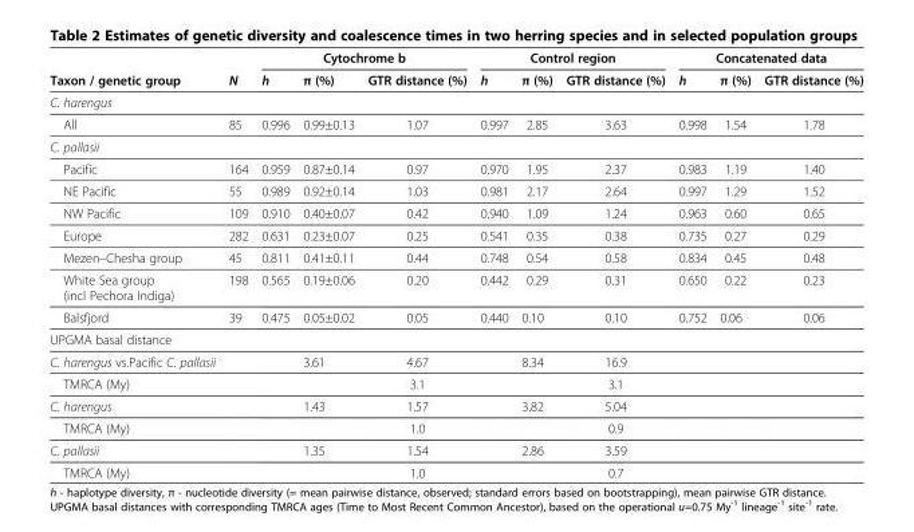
<table><thead><tr><td rowspan="2">Taxon / genetic group</td><td rowspan="2">N</td><td colspan="3">Cytochrome b</td><td colspan="3">Control region</td><td colspan="3">Concatenated data</td></tr><tr><td>h</td><td>π (%)</td><td>GTR distance (%)</td><td>h</td><td>π (%)</td><td>GTR distance (%)</td><td>h</td><td>π (%)</td><td>GTR distance (%)</td></tr></thead><tbody><tr><td colspan="11">C. harengus</td></tr><tr><td>All</td><td>85</td><td>0.996</td><td>0.99±0.13</td><td>1.07</td><td>0.997</td><td>2.85</td><td>3.63</td><td>0.998</td><td>1.54</td><td>1.78</td></tr><tr><td colspan="11">C. pallasii</td></tr><tr><td>Pacific</td><td>164</td><td>0.959</td><td>0.87±0.14</td><td>0.97</td><td>0.970</td><td>1.95</td><td>2.37</td><td>0.983</td><td>1.19</td><td>1.40</td></tr><tr><td>NE Pacific</td><td>55</td><td>0.989</td><td>0.92±0.14</td><td>1.03</td><td>0.981</td><td>2.17</td><td>2.64</td><td>0.997</td><td>1.29</td><td>1.52</td></tr><tr><td>NW Pacific</td><td>109</td><td>0.910</td><td>0.40±0.07</td><td>0.42</td><td>0.940</td><td>1.09</td><td>1.24</td><td>0.963</td><td>0.60</td><td>0.65</td></tr><tr><td>Europe</td><td>282</td><td>0.631</td><td>0.23±0.07</td><td>0.25</td><td>0.541</td><td>0.35</td><td>0.38</td><td>0.735</td><td>0.27</td><td>0.29</td></tr><tr><td>Mezen–Chesha group</td><td>45</td><td>0.811</td><td>0.41±0.11</td><td>0.44</td><td>0.748</td><td>0.54</td><td>0.58</td><td>0.834</td><td>0.45</td><td>0.48</td></tr><tr><td>White Sea group (incl Pechora Indiga)</td><td>198</td><td>0.565</td><td>0.19±0.06</td><td>0.20</td><td>0.442</td><td>0.29</td><td>0.31</td><td>0.650</td><td>0.22</td><td>0.23</td></tr><tr><td>Balsfjord</td><td>39</td><td>0.475</td><td>0.05±0.02</td><td>0.05</td><td>0.440</td><td>0.10</td><td>0.10</td><td>0.752</td><td>0.06</td><td>0.06</td></tr><tr><td colspan="11">UPGMA basal distance</td></tr><tr><td>C. harengus vs.Pacific C. pallasii</td><td></td><td></td><td>3.61</td><td>4.67</td><td></td><td>8.34</td><td>16.9</td><td></td><td></td><td></td></tr><tr><td>TMRCA (My)</td><td></td><td></td><td></td><td>3.1</td><td></td><td></td><td>3.1</td><td></td><td></td><td></td></tr><tr><td>C. harengus</td><td></td><td></td><td>1.43</td><td>1.57</td><td></td><td>3.82</td><td>5.04</td><td></td><td></td><td></td></tr><tr><td>TMRCA (My)</td><td></td><td></td><td></td><td>1.0</td><td></td><td></td><td>0.9</td><td></td><td></td><td></td></tr><tr><td>C. pallasii</td><td></td><td></td><td>1.35</td><td>1.54</td><td></td><td>2.86</td><td>3.59</td><td></td><td></td><td></td></tr><tr><td>TMRCA (My)</td><td></td><td></td><td></td><td>1.0</td><td></td><td></td><td>0.7</td><td></td><td></td><td></td></tr></tbody></table>